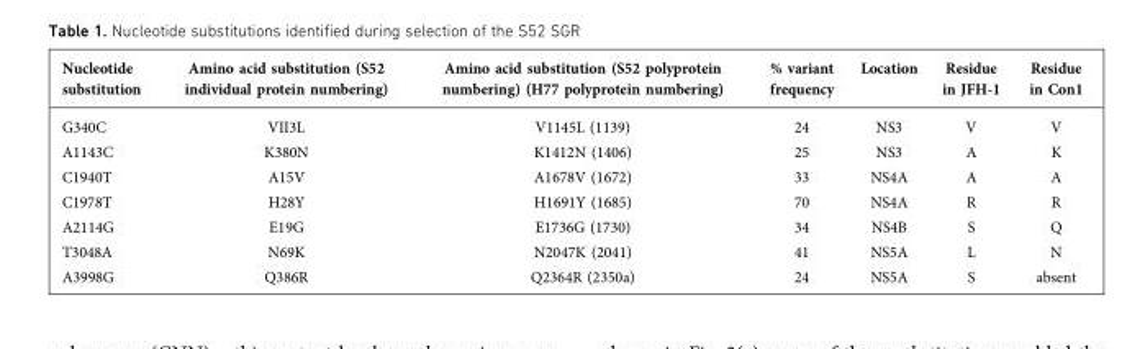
<table><thead><tr><td>Nucleotide substitution</td><td>Amino acid substitution (S52 individual protein numbering)</td><td>Amino acid substitution (S52 polyprotein numbering) (H77 polyprotein numbering)</td><td>% variant frequency</td><td>Location</td><td>Residue in JFH-1</td><td>Residue in Con1</td></tr></thead><tbody><tr><td>G340C</td><td>VII3L</td><td>V1145L (1139)</td><td>24</td><td>NS3</td><td>V</td><td>V</td></tr><tr><td>A1143C</td><td>K380N</td><td>K1412N (1406)</td><td>25</td><td>NS3</td><td>A</td><td>K</td></tr><tr><td>C1940T</td><td>A15V</td><td>A1678V (1672)</td><td>33</td><td>NS4A</td><td>A</td><td>A</td></tr><tr><td>C1978T</td><td>H28Y</td><td>H1691Y (1685)</td><td>70</td><td>NS4A</td><td>R</td><td>R</td></tr><tr><td>A2114G</td><td>E19G</td><td>E1736G (1730)</td><td>34</td><td>NS4B</td><td>S</td><td>Q</td></tr><tr><td>T3048A</td><td>N69K</td><td>N2047K (2041)</td><td>41</td><td>NS5A</td><td>L</td><td>N</td></tr><tr><td>A3998G</td><td>Q386R</td><td>Q2364R (2350a)</td><td>24</td><td>NS5A</td><td>S</td><td>absent</td></tr></tbody></table>